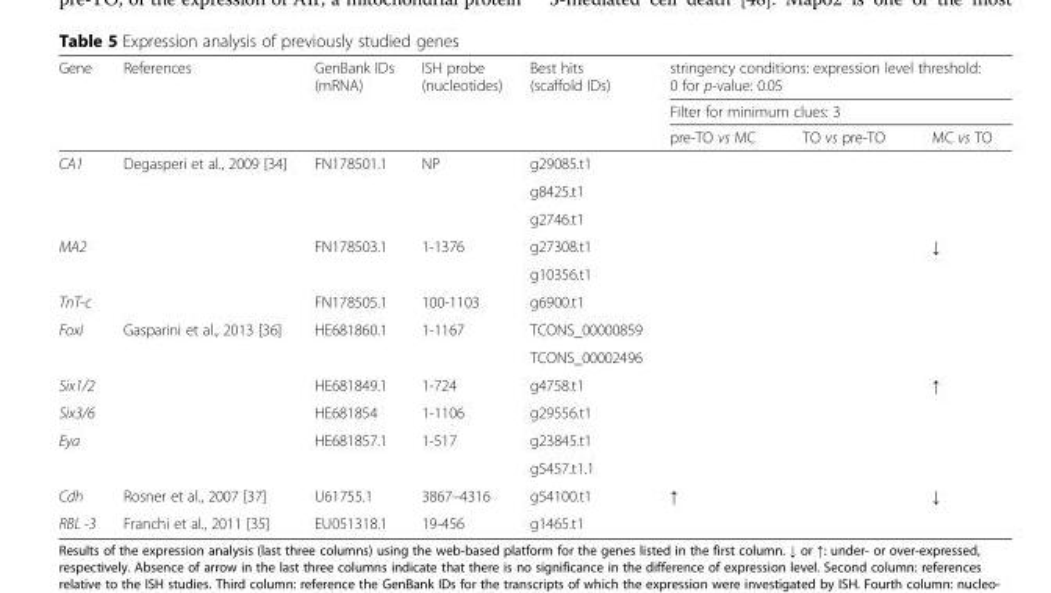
<table><thead><tr><td rowspan="3">Gene</td><td rowspan="3">References</td><td rowspan="3">GenBank IDs (mRNA)</td><td rowspan="3">ISH probe (nucleotides)</td><td rowspan="3">Best hits (scaffold IDs)</td><td rowspan="2" colspan="3">stringency conditions: expression level threshold: 0 for p-value: 0.05 Filter for minimum clues: 3</td></tr><tr></tr><tr><td>pre-TO vs MC</td><td>TO vs pre-TO</td><td>MC vs TO</td></tr></thead><tbody><tr><td rowspan="3">CA1</td><td rowspan="6">Degasperi et al., 2009 [34]</td><td rowspan="3">FN178501.1</td><td rowspan="3">NP</td><td>g29085.t1</td><td></td><td></td><td></td></tr><tr><td>g8425.t1</td><td></td><td></td><td></td></tr><tr><td>g2746.t1</td><td></td><td></td><td></td></tr><tr><td rowspan="2">MA2</td><td rowspan="2">FN178503.1</td><td rowspan="2">1-1376</td><td>g27308.t1</td><td></td><td></td><td>↓</td></tr><tr><td>g10356.t1</td><td></td><td></td><td></td></tr><tr><td>TnT-c</td><td>FN178505.1</td><td>100-1103</td><td>g6900.t1</td><td></td><td></td><td></td></tr><tr><td rowspan="2">FoxI</td><td rowspan="6">Gasparini et al., 2013 [36]</td><td rowspan="2">HE681860.1</td><td rowspan="2">1-1167</td><td>TCONS_00000859</td><td></td><td></td><td></td></tr><tr><td>TCONS_00002496</td><td></td><td></td><td></td></tr><tr><td>Six1/2</td><td>HE681849.1</td><td>1-724</td><td>g4758.t1</td><td></td><td></td><td>↑</td></tr><tr><td>Six3/6</td><td>HE681854</td><td>1-1106</td><td>g29556.t1</td><td></td><td></td><td></td></tr><tr><td rowspan="2">Eya</td><td rowspan="2">HE681857.1</td><td rowspan="2">1-517</td><td>g23845.t1</td><td></td><td></td><td></td></tr><tr><td>g5457.t1.1</td><td></td><td></td><td></td></tr><tr><td>Cdh</td><td>Rosner et al., 2007 [37]</td><td>U61755.1</td><td>3867–4316</td><td>g54100.t1</td><td>↑</td><td></td><td>↓</td></tr><tr><td>RBL -3</td><td>Franchi et al., 2011 [35]</td><td>EU051318.1</td><td>19-456</td><td>g1465.t1</td><td></td><td></td><td></td></tr></tbody></table>